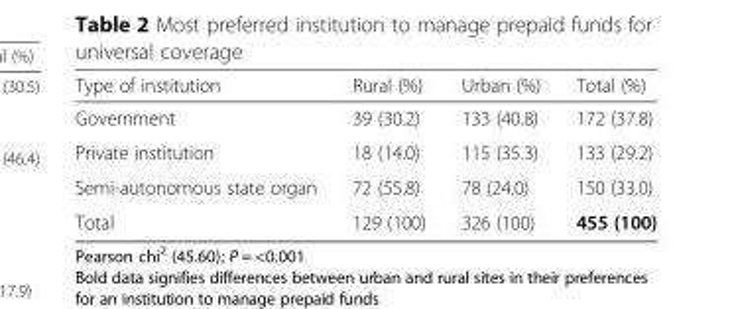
<table><thead><tr><td>Type of institution</td><td>Rural (%)</td><td>Urban (%)</td><td>Total (%)</td></tr></thead><tbody><tr><td>Government</td><td>39 (30.2)</td><td>133 (40.8)</td><td>172 (37.8)</td></tr><tr><td>Private institution</td><td>18 (14.0)</td><td>115 (35.3)</td><td>133 (29.2)</td></tr><tr><td>Semi-autonomous state organ</td><td>72 (55.8)</td><td>78 (24.0)</td><td>150 (33.0)</td></tr><tr><td>Total</td><td>129 (100)</td><td>326 (100)</td><td>455 (100)</td></tr></tbody></table>